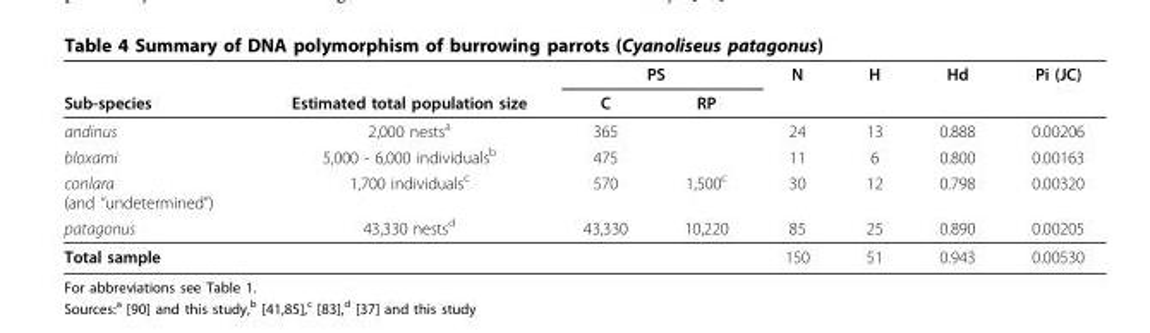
<table><thead><tr><td rowspan="2">Sub-species</td><td rowspan="2">Estimated total population size</td><td colspan="2">PS</td><td rowspan="2">N</td><td rowspan="2">H</td><td rowspan="2">Hd</td><td rowspan="2">Pi (JC)</td></tr><tr><td>C</td><td>RP</td></tr></thead><tbody><tr><td>andinus</td><td>2,000 nests<sup>a</sup></td><td>365</td><td></td><td>24</td><td>13</td><td>0.888</td><td>0.00206</td></tr><tr><td>bloxami</td><td>5,000 - 6,000 individuals<sup>b</sup></td><td>475</td><td></td><td>11</td><td>6</td><td>0.800</td><td>0.00163</td></tr><tr><td>conlara (and “undetermined”)</td><td>1,700 individuals<sup>c</sup></td><td>570</td><td>1,500<sup>c</sup></td><td>30</td><td>12</td><td>0.798</td><td>0.00320</td></tr><tr><td>patagonus</td><td>43,330 nests<sup>d</sup></td><td>43,330</td><td>10,220</td><td>85</td><td>25</td><td>0.890</td><td>0.00205</td></tr><tr><td>Total sample</td><td></td><td></td><td></td><td>150</td><td>51</td><td>0.943</td><td>0.00530</td></tr></tbody></table>